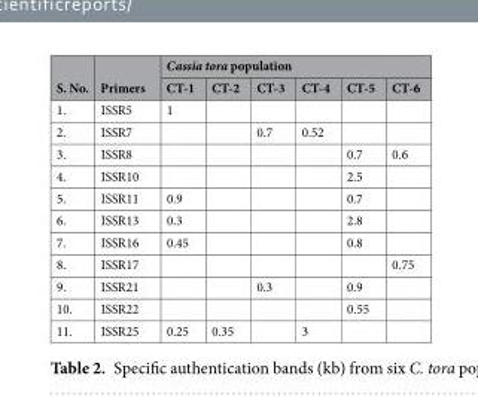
<table><thead><tr><td rowspan="2">S. No.</td><td rowspan="2">Primers</td><td colspan="6">Cassia tora population</td></tr><tr><td>CT-1</td><td>CT-2</td><td>CT-3</td><td>CT-4</td><td>CT-5</td><td>CT-6</td></tr></thead><tbody><tr><td>1.</td><td>ISSR5</td><td>1</td><td></td><td></td><td></td><td></td><td></td></tr><tr><td>2.</td><td>ISSR7</td><td></td><td></td><td>0.7</td><td>0.52</td><td></td><td></td></tr><tr><td>3.</td><td>ISSR8</td><td></td><td></td><td></td><td></td><td>0.7</td><td>0.6</td></tr><tr><td>4.</td><td>ISSR10</td><td></td><td></td><td></td><td></td><td>2.5</td><td></td></tr><tr><td>5.</td><td>ISSR11</td><td>0.9</td><td></td><td></td><td></td><td>0.7</td><td></td></tr><tr><td>6.</td><td>ISSR13</td><td>0.3</td><td></td><td></td><td></td><td>2.8</td><td></td></tr><tr><td>7.</td><td>ISSR16</td><td>0.45</td><td></td><td></td><td></td><td>0.8</td><td></td></tr><tr><td>8.</td><td>ISSR17</td><td></td><td></td><td></td><td></td><td></td><td>0.75</td></tr><tr><td>9.</td><td>ISSR21</td><td></td><td></td><td>0.3</td><td></td><td>0.9</td><td></td></tr><tr><td>10.</td><td>ISSR22</td><td></td><td></td><td></td><td></td><td>0.55</td><td></td></tr><tr><td>11.</td><td>ISSR25</td><td>0.25</td><td>0.35</td><td></td><td>3</td><td></td><td></td></tr></tbody></table>